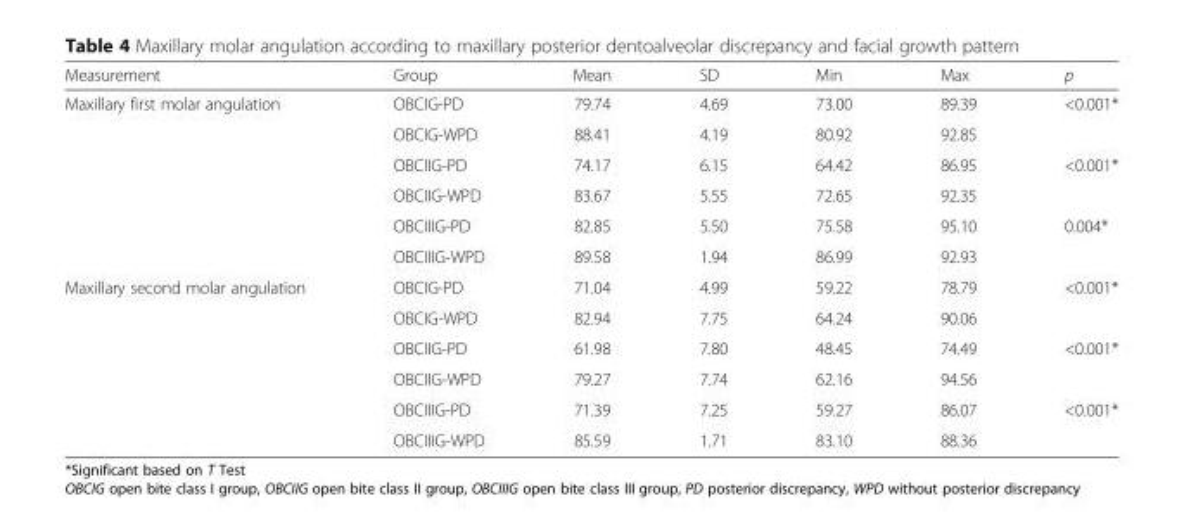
<table><thead><tr><td>Measurement</td><td>Group</td><td>Mean</td><td>SD</td><td>Min</td><td>Max</td><td>p</td></tr></thead><tbody><tr><td rowspan="6">Maxillary first molar angulation</td><td>OBCIG-PD</td><td>79.74</td><td>4.69</td><td>73.00</td><td>89.39</td><td rowspan="2">&lt;0.001*</td></tr><tr><td>OBCIG-WPD</td><td>88.41</td><td>4.19</td><td>80.92</td><td>92.85</td></tr><tr><td>OBCIIG-PD</td><td>74.17</td><td>6.15</td><td>64.42</td><td>86.95</td><td rowspan="2">&lt;0.001*</td></tr><tr><td>OBCIIG-WPD</td><td>83.67</td><td>5.55</td><td>72.65</td><td>92.35</td></tr><tr><td>OBCIIIG-PD</td><td>82.85</td><td>5.50</td><td>75.58</td><td>95.10</td><td rowspan="2">0.004*</td></tr><tr><td>OBCIIIG-WPD</td><td>89.58</td><td>1.94</td><td>86.99</td><td>92.93</td></tr><tr><td rowspan="6">Maxillary second molar angulation</td><td>OBCIG-PD</td><td>71.04</td><td>4.99</td><td>59.22</td><td>78.79</td><td rowspan="2">&lt;0.001*</td></tr><tr><td>OBCIG-WPD</td><td>82.94</td><td>7.75</td><td>64.24</td><td>90.06</td></tr><tr><td>OBCIIG-PD</td><td>61.98</td><td>7.80</td><td>48.45</td><td>74.49</td><td rowspan="2">&lt;0.001*</td></tr><tr><td>OBCIIG-WPD</td><td>79.27</td><td>7.74</td><td>62.16</td><td>94.56</td></tr><tr><td>OBCIIIG-PD</td><td>71.39</td><td>7.25</td><td>59.27</td><td>86.07</td><td rowspan="2">&lt;0.001*</td></tr><tr><td>OBCIIIG-WPD</td><td>85.59</td><td>1.71</td><td>83.10</td><td>88.36</td></tr></tbody></table>